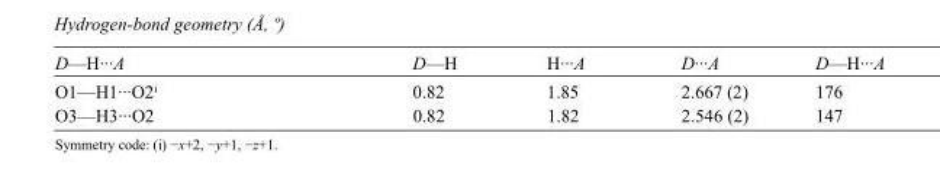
<table><tbody><tr><td>D—H···A</td><td>D—H</td><td>H···A</td><td>D···A</td><td>D—H···A</td></tr><tr><td>O1—H1···O2<sup>i</sup></td><td>0.82</td><td>1.85</td><td>2.667 (2)</td><td>176</td></tr><tr><td>O3—H3···O2</td><td>0.82</td><td>1.82</td><td>2.546 (2)</td><td>147</td></tr></tbody></table>